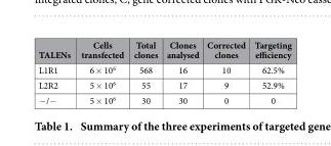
<table><thead><tr><td>TALENs</td><td>Cells transfected</td><td>Total clones</td><td>Clones analysed</td><td>Corrected clones</td><td>Targeting efficiency</td></tr></thead><tbody><tr><td>L1R1</td><td>6 × 10<sup>6</sup></td><td>568</td><td>16</td><td>10</td><td>62.5%</td></tr><tr><td>L2R2</td><td>5 × 10<sup>6</sup></td><td>55</td><td>17</td><td>9</td><td>52.9%</td></tr><tr><td>− /−</td><td>5 × 10<sup>6</sup></td><td>30</td><td>30</td><td>0</td><td>0</td></tr></tbody></table>